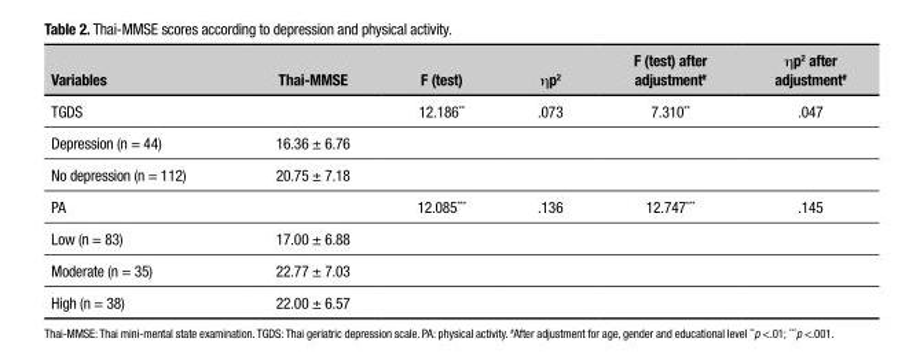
<table><thead><tr><td>Variables</td><td>Thai-MMSE</td><td>F (test)</td><td>hp<sup>2</sup></td><td>F (test) after adjustment<sup>#</sup></td><td>hp<sup>2</sup> after adjustment<sup>#</sup></td></tr></thead><tbody><tr><td>TGDS</td><td></td><td>12.186**</td><td>.073</td><td>7.310**</td><td>.047</td></tr><tr><td>Depression (n = 44)</td><td>16.36 ± 6.76</td><td></td><td></td><td></td><td></td></tr><tr><td>No depression (n = 112)</td><td>20.75 ± 7.18</td><td></td><td></td><td></td><td></td></tr><tr><td>PA</td><td></td><td>12.085***</td><td>.136</td><td>12.747***</td><td>.145</td></tr><tr><td>Low (n = 83)</td><td>17.00 ± 6.88</td><td></td><td></td><td></td><td></td></tr><tr><td>Moderate (n = 35)</td><td>22.77 ± 7.03</td><td></td><td></td><td></td><td></td></tr><tr><td>High (n = 38)</td><td>22.00 ± 6.57</td><td></td><td></td><td></td><td></td></tr></tbody></table>